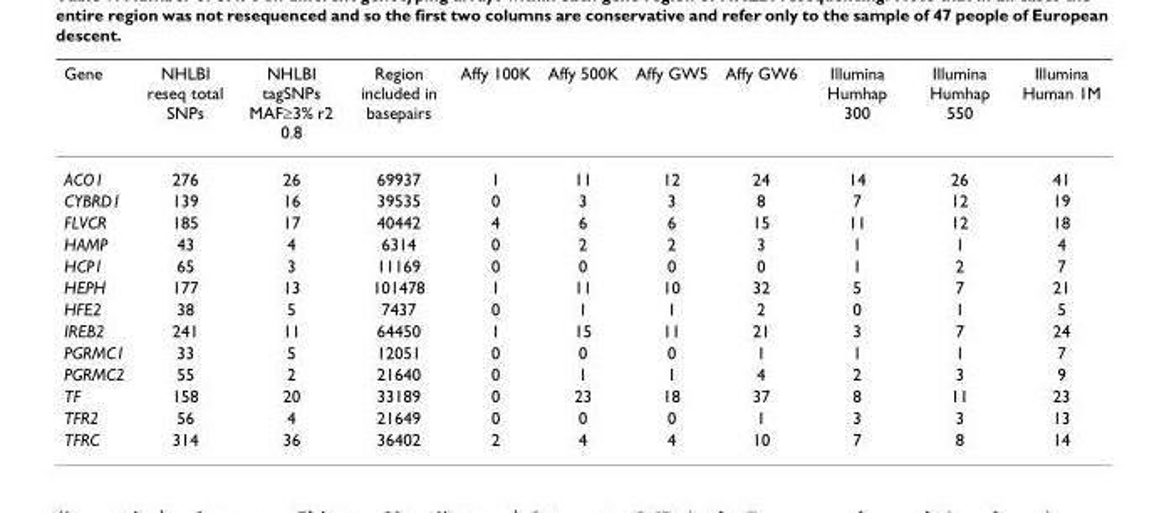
<table><thead><tr><td>Gene</td><td>NHLBI reseq total SNPs</td><td>NHLBI tagSNPs MAF≥3% r2 0.8</td><td>Region included in basepairs</td><td>Affy 100K</td><td>Affy 500K</td><td>Affy GW5</td><td>Affy GW6</td><td>Illumina Humhap 300</td><td>Illumina Humhap 550</td><td>Illumina Human 1M</td></tr></thead><tbody><tr><td>ACO1</td><td>276</td><td>26</td><td>69937</td><td>1</td><td>11</td><td>12</td><td>24</td><td>14</td><td>26</td><td>41</td></tr><tr><td>CYBRD1</td><td>139</td><td>16</td><td>39535</td><td>0</td><td>3</td><td>3</td><td>8</td><td>7</td><td>12</td><td>19</td></tr><tr><td>FLVCR</td><td>185</td><td>17</td><td>40442</td><td>4</td><td>6</td><td>6</td><td>15</td><td>11</td><td>12</td><td>18</td></tr><tr><td>HAMP</td><td>43</td><td>4</td><td>6314</td><td>0</td><td>2</td><td>2</td><td>3</td><td>1</td><td>1</td><td>4</td></tr><tr><td>HCP1</td><td>65</td><td>3</td><td>11169</td><td>0</td><td>0</td><td>0</td><td>0</td><td>1</td><td>2</td><td>7</td></tr><tr><td>HEPH</td><td>177</td><td>13</td><td>101478</td><td>1</td><td>11</td><td>10</td><td>32</td><td>5</td><td>7</td><td>21</td></tr><tr><td>HFE2</td><td>38</td><td>5</td><td>7437</td><td>0</td><td>1</td><td>1</td><td>2</td><td>0</td><td>1</td><td>5</td></tr><tr><td>IREB2</td><td>241</td><td>11</td><td>64450</td><td>1</td><td>15</td><td>11</td><td>21</td><td>3</td><td>7</td><td>24</td></tr><tr><td>PGRMC1</td><td>33</td><td>5</td><td>12051</td><td>0</td><td>0</td><td>0</td><td>1</td><td>1</td><td>1</td><td>7</td></tr><tr><td>PGRMC2</td><td>55</td><td>2</td><td>21640</td><td>0</td><td>1</td><td>1</td><td>4</td><td>2</td><td>3</td><td>9</td></tr><tr><td>TF</td><td>158</td><td>20</td><td>33189</td><td>0</td><td>23</td><td>18</td><td>37</td><td>8</td><td>11</td><td>23</td></tr><tr><td>TFR2</td><td>56</td><td>4</td><td>21649</td><td>0</td><td>0</td><td>0</td><td>1</td><td>3</td><td>3</td><td>13</td></tr><tr><td>TFRC</td><td>314</td><td>36</td><td>36402</td><td>2</td><td>4</td><td>4</td><td>10</td><td>7</td><td>8</td><td>14</td></tr></tbody></table>